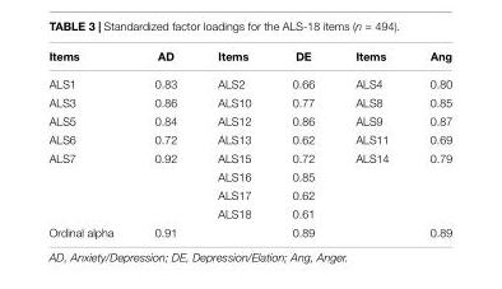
<table><thead><tr><td>Items</td><td>AD</td><td>Items</td><td>DE</td><td>Items</td><td>Ang</td></tr></thead><tbody><tr><td>ALS1</td><td>0.83</td><td>ALS2</td><td>0.66</td><td>ALS4</td><td>0.80</td></tr><tr><td>ALS3</td><td>0.86</td><td>ALS10</td><td>0.77</td><td>ALS8</td><td>0.85</td></tr><tr><td>ALS5</td><td>0.84</td><td>ALS12</td><td>0.86</td><td>ALS9</td><td>0.87</td></tr><tr><td>ALS6</td><td>0.72</td><td>ALS13</td><td>0.62</td><td>ALS11</td><td>0.69</td></tr><tr><td rowspan="4">ALS7</td><td>0.92</td><td>ALS15</td><td>0.72</td><td>ALS14</td><td>0.79</td></tr><tr><td></td><td>ALS16</td><td>0.85</td><td></td><td></td></tr><tr><td></td><td>ALS17</td><td>0.62</td><td></td><td></td></tr><tr><td></td><td>ALS18</td><td>0.61</td><td></td><td></td></tr><tr><td>Ordinal alpha</td><td>0.91</td><td></td><td>0.89</td><td></td><td>0.89</td></tr></tbody></table>